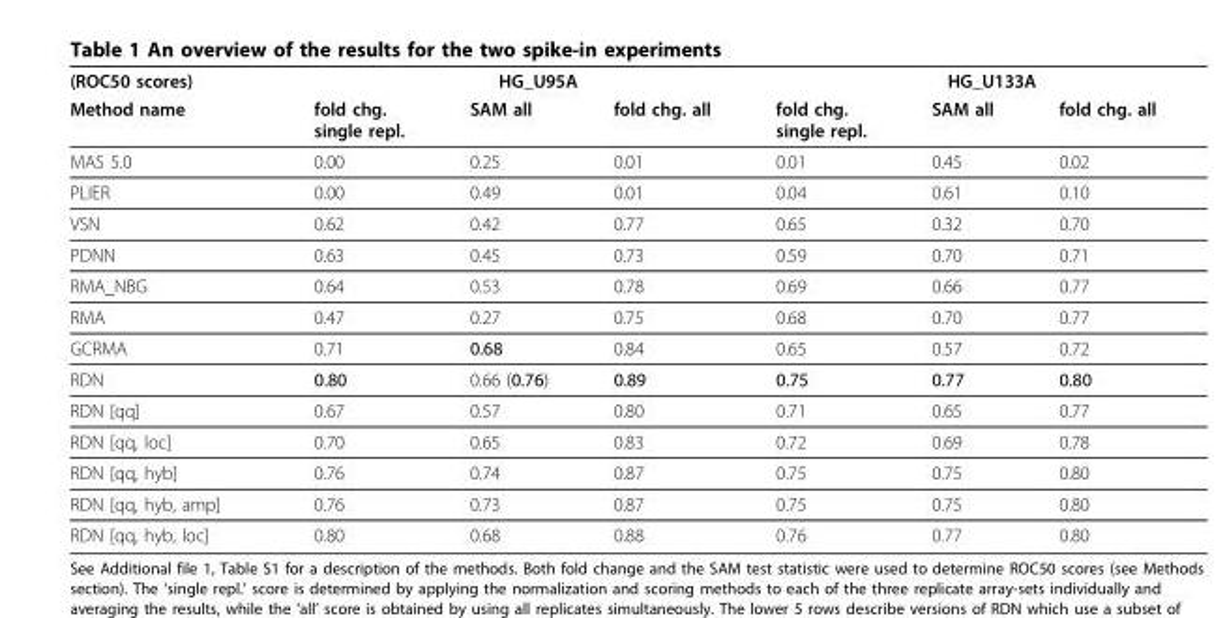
<table><thead><tr><td rowspan="2">(ROC50 scores) Method name</td><td colspan="3">HG_U95A</td><td colspan="3">HG_U133A</td></tr><tr><td>fold chg. single repl.</td><td>SAM all</td><td>fold chg. all</td><td>fold chg. single repl.</td><td>SAM all</td><td>fold chg. all</td></tr></thead><tbody><tr><td>MAS 5.0</td><td>0.00</td><td>0.25</td><td>0.01</td><td>0.01</td><td>0.45</td><td>0.02</td></tr><tr><td>PLIER</td><td>0.00</td><td>0.49</td><td>0.01</td><td>0.04</td><td>0.61</td><td>0.10</td></tr><tr><td>VSN</td><td>0.62</td><td>0.42</td><td>0.77</td><td>0.65</td><td>0.32</td><td>0.70</td></tr><tr><td>PDNN</td><td>0.63</td><td>0.45</td><td>0.73</td><td>0.59</td><td>0.70</td><td>0.71</td></tr><tr><td>RMA_NBG</td><td>0.64</td><td>0.53</td><td>0.78</td><td>0.69</td><td>0.66</td><td>0.77</td></tr><tr><td>RMA</td><td>0.47</td><td>0.27</td><td>0.75</td><td>0.68</td><td>0.70</td><td>0.77</td></tr><tr><td>GCRMA</td><td>0.71</td><td>0.68</td><td>0.84</td><td>0.65</td><td>0.57</td><td>0.72</td></tr><tr><td>RDN</td><td>0.80</td><td>0.66 (0.76)</td><td>0.89</td><td>0.75</td><td>0.77</td><td>0.80</td></tr><tr><td>RDN [qq]</td><td>0.67</td><td>0.57</td><td>0.80</td><td>0.71</td><td>0.65</td><td>0.77</td></tr><tr><td>RDN [qq, loc]</td><td>0.70</td><td>0.65</td><td>0.83</td><td>0.72</td><td>0.69</td><td>0.78</td></tr><tr><td>RDN [qq, hyb]</td><td>0.76</td><td>0.74</td><td>0.87</td><td>0.75</td><td>0.75</td><td>0.80</td></tr><tr><td>RDN [qq, hyb, amp]</td><td>0.76</td><td>0.73</td><td>0.87</td><td>0.75</td><td>0.75</td><td>0.80</td></tr><tr><td>RDN [qq, hyb, loc]</td><td>0.80</td><td>0.68</td><td>0.88</td><td>0.76</td><td>0.77</td><td>0.80</td></tr></tbody></table>